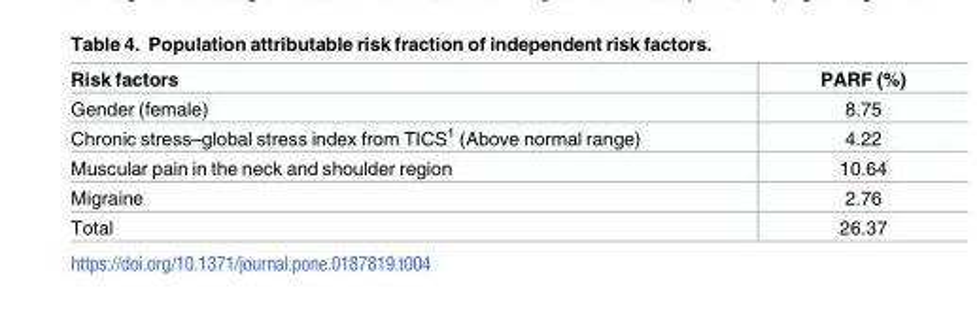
<table><thead><tr><td>Risk factors</td><td>PARF (%)</td></tr></thead><tbody><tr><td>Gender (female)</td><td>8.75</td></tr><tr><td>Chronic stress–global stress index from TICS<sup>1</sup> (Above normal range)</td><td>4.22</td></tr><tr><td>Muscular pain in the neck and shoulder region</td><td>10.64</td></tr><tr><td>Migraine</td><td>2.76</td></tr><tr><td>Total</td><td>26.37</td></tr></tbody></table>